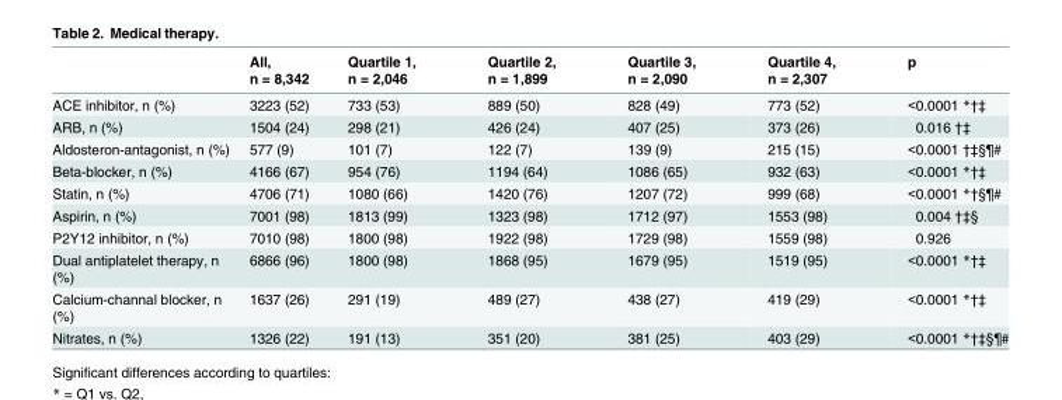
<table><thead><tr><td></td><td>All, n = 8,342</td><td>Quartile 1, n = 2,046</td><td>Quartile 2, n = 1,899</td><td>Quartile 3, n = 2,090</td><td>Quartile 4, n = 2,307</td><td>p</td></tr></thead><tbody><tr><td>ACE inhibitor, n (%)</td><td>3223 (52)</td><td>733 (53)</td><td>889 (50)</td><td>828 (49)</td><td>773 (52)</td><td>&lt;0.0001 *†‡</td></tr><tr><td>ARB, n (%)</td><td>1504 (24)</td><td>298 (21)</td><td>426 (24)</td><td>407 (25)</td><td>373 (26)</td><td>0.016 †‡</td></tr><tr><td>Aldosteron-antagonist, n (%)</td><td>577 (9)</td><td>101 (7)</td><td>122 (7)</td><td>139 (9)</td><td>215 (15)</td><td>&lt;0.0001 †‡§¶#</td></tr><tr><td>Beta-blocker, n (%)</td><td>4166 (67)</td><td>954 (76)</td><td>1194 (64)</td><td>1086 (65)</td><td>932 (63)</td><td>&lt;0.0001 *†‡</td></tr><tr><td>Statin, n (%)</td><td>4706 (71)</td><td>1080 (66)</td><td>1420 (76)</td><td>1207 (72)</td><td>999 (68)</td><td>&lt;0.0001 *†§¶#</td></tr><tr><td>Aspirin, n (%)</td><td>7001 (98)</td><td>1813 (99)</td><td>1323 (98)</td><td>1712 (97)</td><td>1553 (98)</td><td>0.004 †‡§</td></tr><tr><td>P2Y12 inhibitor, n (%)</td><td>7010 (98)</td><td>1800 (98)</td><td>1922 (98)</td><td>1729 (98)</td><td>1559 (98)</td><td>0.926</td></tr><tr><td>Dual antiplatelet therapy, n (%)</td><td>6866 (96)</td><td>1800 (98)</td><td>1868 (95)</td><td>1679 (95)</td><td>1519 (95)</td><td>&lt;0.0001 *†‡</td></tr><tr><td>Calcium-channal blocker, n (%)</td><td>1637 (26)</td><td>291 (19)</td><td>489 (27)</td><td>438 (27)</td><td>419 (29)</td><td>&lt;0.0001 *†‡</td></tr><tr><td>Nitrates, n (%)</td><td>1326 (22)</td><td>191 (13)</td><td>351 (20)</td><td>381 (25)</td><td>403 (29)</td><td>&lt;0.0001 *†‡§¶#</td></tr></tbody></table>